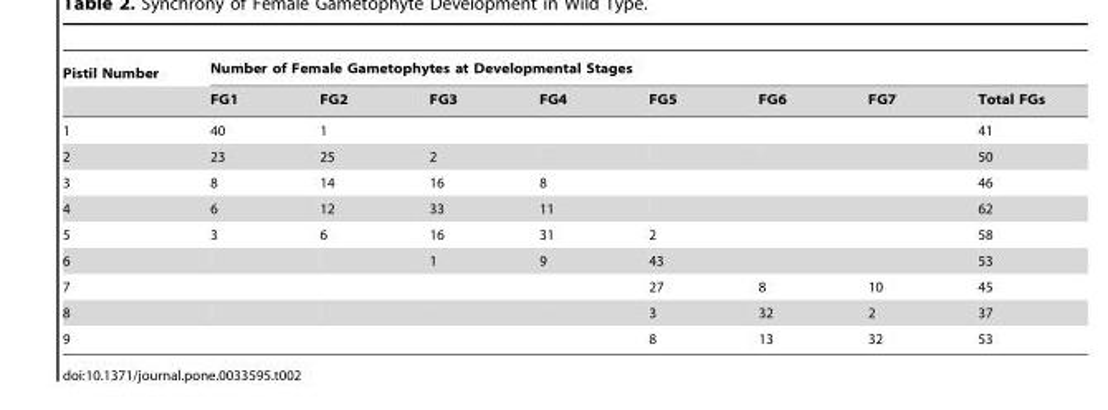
<table><thead><tr><td rowspan="2">Pistil Number</td><td colspan="8">Number of Female Gametophytes at Developmental Stages</td></tr><tr><td>FG1</td><td>FG2</td><td>FG3</td><td>FG4</td><td>FG5</td><td>FG6</td><td>FG7</td><td>Total FGs</td></tr></thead><tbody><tr><td>1</td><td>40</td><td>1</td><td></td><td></td><td></td><td></td><td></td><td>41</td></tr><tr><td>2</td><td>23</td><td>25</td><td>2</td><td></td><td></td><td></td><td></td><td>50</td></tr><tr><td>3</td><td>8</td><td>14</td><td>16</td><td>8</td><td></td><td></td><td></td><td>46</td></tr><tr><td>4</td><td>6</td><td>12</td><td>33</td><td>11</td><td></td><td></td><td></td><td>62</td></tr><tr><td>5</td><td>3</td><td>6</td><td>16</td><td>31</td><td>2</td><td></td><td></td><td>58</td></tr><tr><td>6</td><td></td><td></td><td>1</td><td>9</td><td>43</td><td></td><td></td><td>53</td></tr><tr><td>7</td><td></td><td></td><td></td><td></td><td>27</td><td>8</td><td>10</td><td>45</td></tr><tr><td>8</td><td></td><td></td><td></td><td></td><td>3</td><td>32</td><td>2</td><td>37</td></tr><tr><td>9</td><td></td><td></td><td></td><td></td><td>8</td><td>13</td><td>32</td><td>53</td></tr></tbody></table>